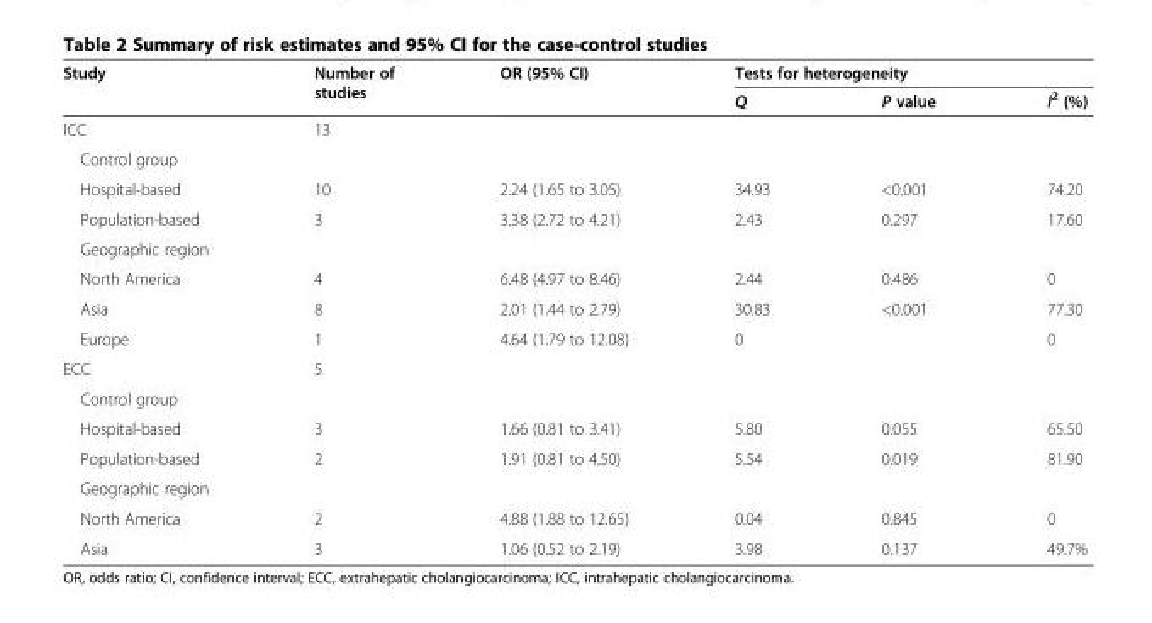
<table><thead><tr><td rowspan="2">Study</td><td rowspan="2">Number of studies</td><td rowspan="2">OR (95% CI)</td><td colspan="3">Tests for heterogeneity</td></tr><tr><td>Q</td><td>P value</td><td>I<sup>2</sup> (%)</td></tr></thead><tbody><tr><td>ICC</td><td>13</td><td></td><td colspan="3"></td></tr><tr><td colspan="6">Control group</td></tr><tr><td>Hospital-based</td><td>10</td><td>2.24 (1.65 to 3.05)</td><td>34.93</td><td>&lt;0.001</td><td>74.20</td></tr><tr><td>Population-based</td><td>3</td><td>3.38 (2.72 to 4.21)</td><td>2.43</td><td>0.297</td><td>17.60</td></tr><tr><td colspan="6">Geographic region</td></tr><tr><td>North America</td><td>4</td><td>6.48 (4.97 to 8.46)</td><td>2.44</td><td>0.486</td><td>0</td></tr><tr><td>Asia</td><td>8</td><td>2.01 (1.44 to 2.79)</td><td>30.83</td><td>&lt;0.001</td><td>77.30</td></tr><tr><td>Europe</td><td>1</td><td>4.64 (1.79 to 12.08)</td><td>0</td><td></td><td>0</td></tr><tr><td>ECC</td><td>5</td><td></td><td></td><td></td><td></td></tr><tr><td colspan="6">Control group</td></tr><tr><td>Hospital-based</td><td>3</td><td>1.66 (0.81 to 3.41)</td><td>5.80</td><td>0.055</td><td>65.50</td></tr><tr><td>Population-based</td><td>2</td><td>1.91 (0.81 to 4.50)</td><td>5.54</td><td>0.019</td><td>81.90</td></tr><tr><td colspan="6">Geographic region</td></tr><tr><td>North America</td><td>2</td><td>4.88 (1.88 to 12.65)</td><td>0.04</td><td>0.845</td><td>0</td></tr><tr><td>Asia</td><td>3</td><td>1.06 (0.52 to 2.19)</td><td>3.98</td><td>0.137</td><td>49.7%</td></tr></tbody></table>